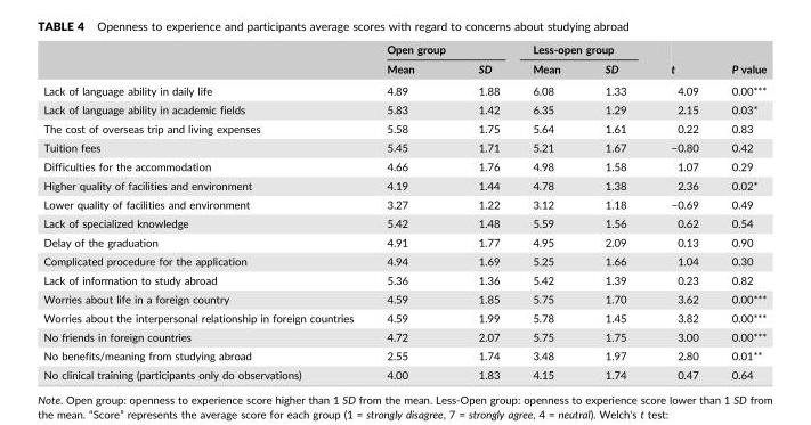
<table><thead><tr><td rowspan="2"></td><td rowspan="2">Open group Mean</td><td rowspan="2">SD</td><td colspan="2">Less‐open group</td><td rowspan="2">t</td><td rowspan="2">P value</td></tr><tr><td>Mean</td><td>SD</td></tr></thead><tbody><tr><td>Lack of language ability in daily life</td><td>4.89</td><td>1.88</td><td>6.08</td><td>1.33</td><td>4.09</td><td>0.00***</td></tr><tr><td>Lack of language ability in academic fields</td><td>5.83</td><td>1.42</td><td>6.35</td><td>1.29</td><td>2.15</td><td>0.03*</td></tr><tr><td>The cost of overseas trip and living expenses</td><td>5.58</td><td>1.75</td><td>5.64</td><td>1.61</td><td>0.22</td><td>0.83</td></tr><tr><td>Tuition fees</td><td>5.45</td><td>1.71</td><td>5.21</td><td>1.67</td><td>−0.80</td><td>0.42</td></tr><tr><td>Difficulties for the accommodation</td><td>4.66</td><td>1.76</td><td>4.98</td><td>1.58</td><td>1.07</td><td>0.29</td></tr><tr><td>Higher quality of facilities and environment</td><td>4.19</td><td>1.44</td><td>4.78</td><td>1.38</td><td>2.36</td><td>0.02*</td></tr><tr><td>Lower quality of facilities and environment</td><td>3.27</td><td>1.22</td><td>3.12</td><td>1.18</td><td>−0.69</td><td>0.49</td></tr><tr><td>Lack of specialized knowledge</td><td>5.42</td><td>1.48</td><td>5.59</td><td>1.56</td><td>0.62</td><td>0.54</td></tr><tr><td>Delay of the graduation</td><td>4.91</td><td>1.77</td><td>4.95</td><td>2.09</td><td>0.13</td><td>0.90</td></tr><tr><td>Complicated procedure for the application</td><td>4.94</td><td>1.69</td><td>5.25</td><td>1.66</td><td>1.04</td><td>0.30</td></tr><tr><td>Lack of information to study abroad</td><td>5.36</td><td>1.36</td><td>5.42</td><td>1.39</td><td>0.23</td><td>0.82</td></tr><tr><td>Worries about life in a foreign country</td><td>4.59</td><td>1.85</td><td>5.75</td><td>1.70</td><td>3.62</td><td>0.00***</td></tr><tr><td>Worries about the interpersonal relationship in foreign countries</td><td>4.59</td><td>1.99</td><td>5.78</td><td>1.45</td><td>3.82</td><td>0.00***</td></tr><tr><td>No friends in foreign countries</td><td>4.72</td><td>2.07</td><td>5.75</td><td>1.75</td><td>3.00</td><td>0.00***</td></tr><tr><td>No benefits/meaning from studying abroad</td><td>2.55</td><td>1.74</td><td>3.48</td><td>1.97</td><td>2.80</td><td>0.01**</td></tr><tr><td>No clinical training (participants only do observations)</td><td>4.00</td><td>1.83</td><td>4.15</td><td>1.74</td><td>0.47</td><td>0.64</td></tr></tbody></table>